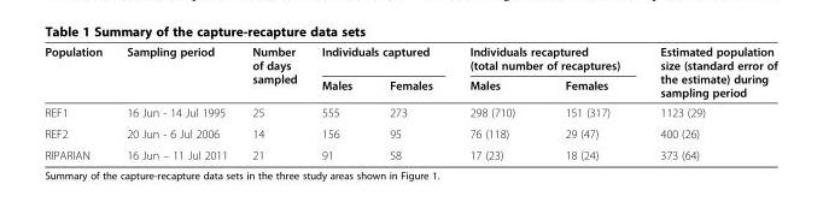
<table><thead><tr><td rowspan="2">Population</td><td rowspan="2">Sampling period</td><td rowspan="2">Number of days sampled</td><td colspan="2">Individuals captured</td><td colspan="2">Individuals recaptured (total number of recaptures)</td><td rowspan="2">Estimated population size (standard error of the estimate) during sampling period</td></tr><tr><td>Males</td><td>Females</td><td>Males</td><td>Females</td></tr></thead><tbody><tr><td>REF1</td><td>16 Jun - 14 Jul 1995</td><td>25</td><td>555</td><td>273</td><td>298 (710)</td><td>151 (317)</td><td>1123 (29)</td></tr><tr><td>REF2</td><td>20 Jun - 6 Jul 2006</td><td>14</td><td>156</td><td>95</td><td>76 (118)</td><td>29 (47)</td><td>400 (26)</td></tr><tr><td>RIPARIAN</td><td>16 Jun – 11 Jul 2011</td><td>21</td><td>91</td><td>58</td><td>17 (23)</td><td>18 (24)</td><td>373 (64)</td></tr></tbody></table>